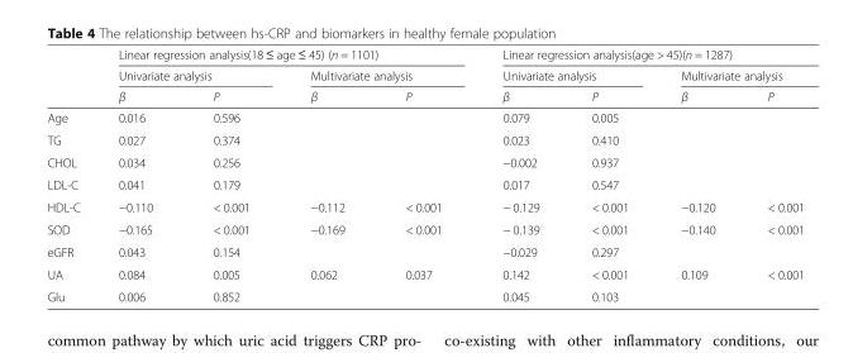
<table><thead><tr><td rowspan="3"></td><td colspan="4">Linear regression analysis(18 ≤ age ≤ 45) (n = 1101)</td><td colspan="4">Linear regression analysis(age &gt; 45)(n = 1287)</td></tr><tr><td colspan="2">Univariate analysis</td><td colspan="2">Multivariate analysis</td><td colspan="2">Univariate analysis</td><td colspan="2">Multivariate analysis</td></tr><tr><td>β</td><td>P</td><td>β</td><td>P</td><td>β</td><td>P</td><td>β</td><td>P</td></tr></thead><tbody><tr><td>Age</td><td>0.016</td><td>0.596</td><td></td><td></td><td>0.079</td><td>0.005</td><td></td><td></td></tr><tr><td>TG</td><td>0.027</td><td>0.374</td><td></td><td></td><td>0.023</td><td>0.410</td><td></td><td></td></tr><tr><td>CHOL</td><td>0.034</td><td>0.256</td><td></td><td></td><td>−0.002</td><td>0.937</td><td></td><td></td></tr><tr><td>LDL-C</td><td>0.041</td><td>0.179</td><td></td><td></td><td>0.017</td><td>0.547</td><td></td><td></td></tr><tr><td>HDL-C</td><td>−0.110</td><td>&lt; 0.001</td><td>−0.112</td><td>&lt; 0.001</td><td>− 0.129</td><td>&lt; 0.001</td><td>−0.120</td><td>&lt; 0.001</td></tr><tr><td>SOD</td><td>−0.165</td><td>&lt; 0.001</td><td>−0.169</td><td>&lt; 0.001</td><td>− 0.139</td><td>&lt; 0.001</td><td>−0.140</td><td>&lt; 0.001</td></tr><tr><td>eGFR</td><td>0.043</td><td>0.154</td><td></td><td></td><td>−0.029</td><td>0.297</td><td></td><td></td></tr><tr><td>UA</td><td>0.084</td><td>0.005</td><td>0.062</td><td>0.037</td><td>0.142</td><td>&lt; 0.001</td><td>0.109</td><td>&lt; 0.001</td></tr><tr><td>Glu</td><td>0.006</td><td>0.852</td><td></td><td></td><td>0.045</td><td>0.103</td><td></td><td></td></tr></tbody></table>